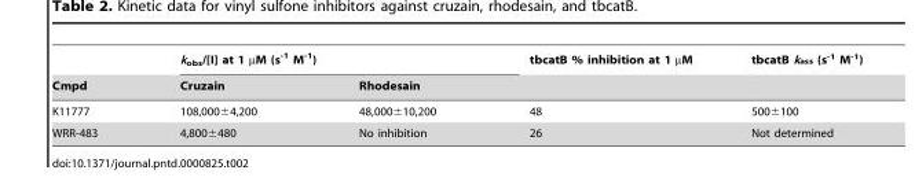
<table><thead><tr><td rowspan="2">Cmpd</td><td colspan="2">k<sub>obs</sub>/[I] at 1 µM (s<sup>-1</sup> M<sup>-1</sup>)</td><td rowspan="2">tbcatB % inhibition at 1 µM</td><td rowspan="2">tbcatB k<sub>ass</sub> (s<sup>-1</sup> M<sup>-1</sup>)</td></tr><tr><td>Cruzain</td><td>Rhodesain</td></tr></thead><tbody><tr><td>K11777</td><td>108,000±4,200</td><td>48,000±10,200</td><td>48</td><td>500±100</td></tr><tr><td>WRR-483</td><td>4,800±480</td><td>No inhibition</td><td>26</td><td>Not determined</td></tr></tbody></table>